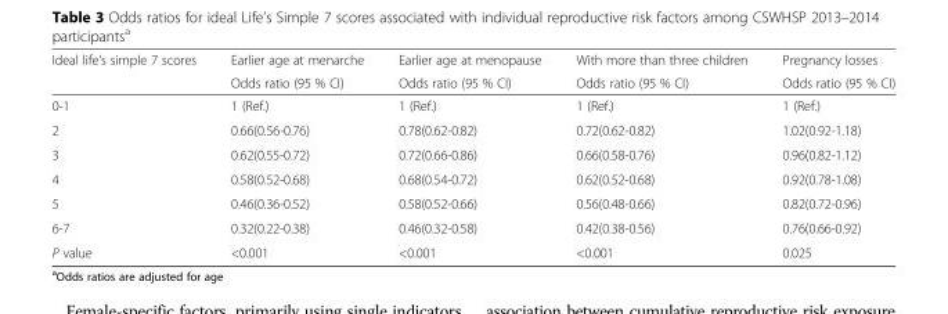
<table><thead><tr><td rowspan="2">Ideal life’s simple 7 scores</td><td rowspan="2">Earlier age at menarche Odds ratio (95 % CI)</td><td rowspan="2">Earlier age at menopause Odds ratio (95 % CI)</td><td rowspan="2">With more than three children Odds ratio (95 % CI)</td><td rowspan="2">Pregnancy losses Odds ratio (95 % CI)</td></tr><tr></tr></thead><tbody><tr><td>0-1</td><td>1 (Ref.)</td><td>1 (Ref.)</td><td>1 (Ref.)</td><td>1 (Ref.)</td></tr><tr><td>2</td><td>0.66(0.56-0.76)</td><td>0.78(0.62-0.82)</td><td>0.72(0.62-0.82)</td><td>1.02(0.92-1.18)</td></tr><tr><td>3</td><td>0.62(0.55-0.72)</td><td>0.72(0.66-0.86)</td><td>0.66(0.58-0.76)</td><td>0.96(0.82-1.12)</td></tr><tr><td>4</td><td>0.58(0.52-0.68)</td><td>0.68(0.54-0.72)</td><td>0.62(0.52-0.68)</td><td>0.92(0.78-1.08)</td></tr><tr><td>5</td><td>0.46(0.36-0.52)</td><td>0.58(0.52-0.66)</td><td>0.56(0.48-0.66)</td><td>0.82(0.72-0.96)</td></tr><tr><td>6-7</td><td>0.32(0.22-0.38)</td><td>0.46(0.32-0.58)</td><td>0.42(0.38-0.56)</td><td>0.76(0.66-0.92)</td></tr><tr><td>P value</td><td>&lt;0.001</td><td>&lt;0.001</td><td>&lt;0.001</td><td>0.025</td></tr></tbody></table>